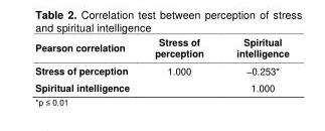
<table><thead><tr><td>Pearson correlation</td><td>Stress of perception</td><td>Spiritual intelligence</td></tr></thead><tbody><tr><td>Stress of perception</td><td>1.000</td><td>−0.253*</td></tr><tr><td>Spiritual intelligence</td><td></td><td>1.000</td></tr></tbody></table>